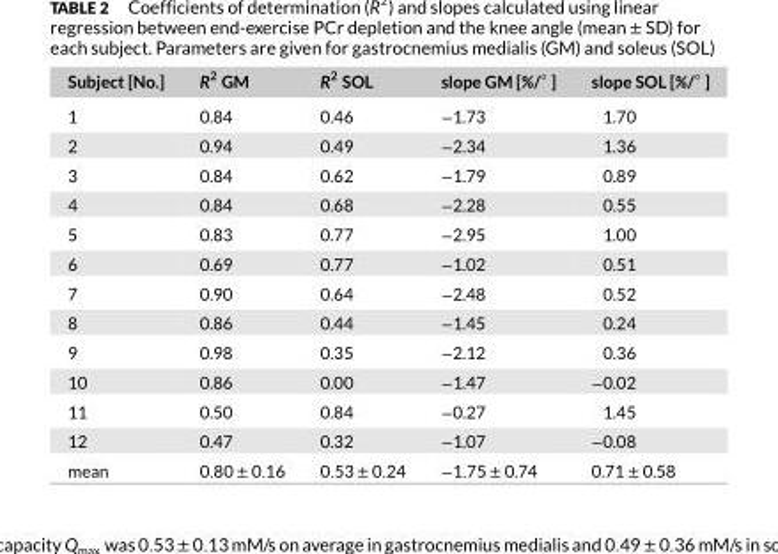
<table><thead><tr><td>Subject [No.]</td><td>R<sup>2</sup> GM</td><td>R<sup>2</sup> SOL</td><td>slope GM [%/◦ ]</td><td>slope SOL [%/◦ ]</td></tr></thead><tbody><tr><td>1</td><td>0.84</td><td>0.46</td><td>−1.73</td><td>1.70</td></tr><tr><td>2</td><td>0.94</td><td>0.49</td><td>−2.34</td><td>1.36</td></tr><tr><td>3</td><td>0.84</td><td>0.62</td><td>−1.79</td><td>0.89</td></tr><tr><td>4</td><td>0.84</td><td>0.68</td><td>−2.28</td><td>0.55</td></tr><tr><td>5</td><td>0.83</td><td>0.77</td><td>−2.95</td><td>1.00</td></tr><tr><td>6</td><td>0.69</td><td>0.77</td><td>−1.02</td><td>0.51</td></tr><tr><td>7</td><td>0.90</td><td>0.64</td><td>−2.48</td><td>0.52</td></tr><tr><td>8</td><td>0.86</td><td>0.44</td><td>−1.45</td><td>0.24</td></tr><tr><td>9</td><td>0.98</td><td>0.35</td><td>−2.12</td><td>0.36</td></tr><tr><td>10</td><td>0.86</td><td>0.00</td><td>−1.47</td><td>−0.02</td></tr><tr><td>11</td><td>0.50</td><td>0.84</td><td>−0.27</td><td>1.45</td></tr><tr><td>12</td><td>0.47</td><td>0.32</td><td>−1.07</td><td>−0.08</td></tr><tr><td>mean</td><td>0.80 ± 0.16</td><td>0.53 ± 0.24</td><td>−1.75 ± 0.74</td><td>0.71 ± 0.58</td></tr></tbody></table>